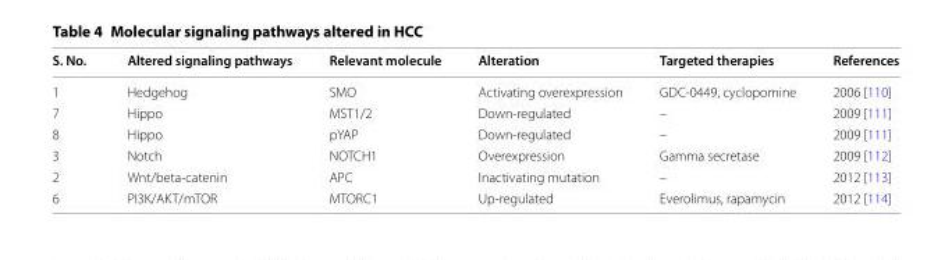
<table><thead><tr><td>S. No.</td><td>Altered signaling pathways</td><td>Relevant molecule</td><td>Alteration</td><td>Targeted therapies</td><td>References</td></tr></thead><tbody><tr><td>1</td><td>Hedgehog</td><td>SMO</td><td>Activating overexpression</td><td>GDC‑0449, cyclopomine</td><td>2006 [110]</td></tr><tr><td>7</td><td>Hippo</td><td>MST1/2</td><td>Down‑regulated</td><td>–</td><td>2009 [111]</td></tr><tr><td>8</td><td>Hippo</td><td>pYAP</td><td>Down‑regulated</td><td>–</td><td>2009 [111]</td></tr><tr><td>3</td><td>Notch</td><td>NOTCH1</td><td>Overexpression</td><td>Gamma secretase</td><td>2009 [112]</td></tr><tr><td>2</td><td>Wnt/beta‑catenin</td><td>APC</td><td>Inactivating mutation</td><td>–</td><td>2012 [113]</td></tr><tr><td>6</td><td>PI3K/AKT/mTOR</td><td>MTORC1</td><td>Up‑regulated</td><td>Everolimus, rapamycin</td><td>2012 [114]</td></tr></tbody></table>